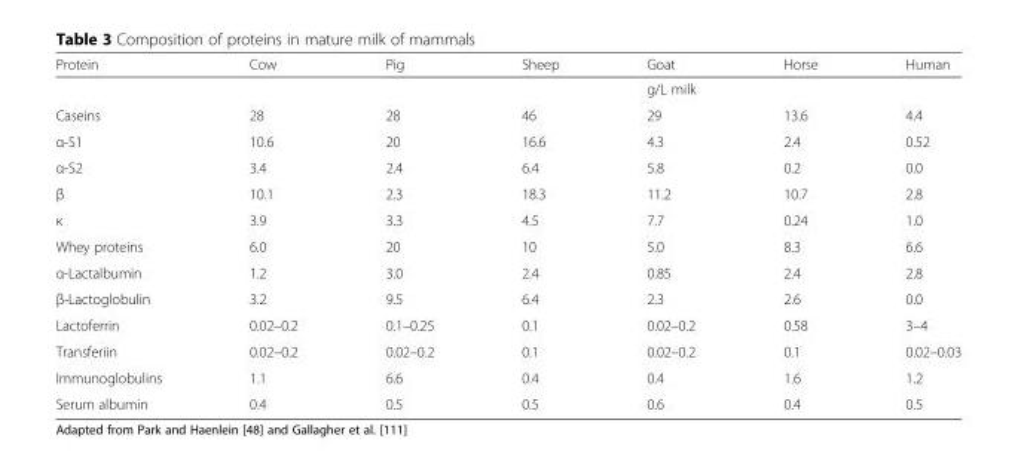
<table><thead><tr><td>Protein</td><td>Cow</td><td>Pig</td><td>Sheep</td><td>Goat</td><td>Horse</td><td>Human</td></tr></thead><tbody><tr><td></td><td></td><td></td><td></td><td>g/L milk</td><td></td><td></td></tr><tr><td>Caseins</td><td>28</td><td>28</td><td>46</td><td>29</td><td>13.6</td><td>4.4</td></tr><tr><td>α-S1</td><td>10.6</td><td>20</td><td>16.6</td><td>4.3</td><td>2.4</td><td>0.52</td></tr><tr><td>α-S2</td><td>3.4</td><td>2.4</td><td>6.4</td><td>5.8</td><td>0.2</td><td>0.0</td></tr><tr><td>β</td><td>10.1</td><td>2.3</td><td>18.3</td><td>11.2</td><td>10.7</td><td>2.8</td></tr><tr><td>κ</td><td>3.9</td><td>3.3</td><td>4.5</td><td>7.7</td><td>0.24</td><td>1.0</td></tr><tr><td>Whey proteins</td><td>6.0</td><td>20</td><td>10</td><td>5.0</td><td>8.3</td><td>6.6</td></tr><tr><td>α-Lactalbumin</td><td>1.2</td><td>3.0</td><td>2.4</td><td>0.85</td><td>2.4</td><td>2.8</td></tr><tr><td>β-Lactoglobulin</td><td>3.2</td><td>9.5</td><td>6.4</td><td>2.3</td><td>2.6</td><td>0.0</td></tr><tr><td>Lactoferrin</td><td>0.02–0.2</td><td>0.1–0.25</td><td>0.1</td><td>0.02–0.2</td><td>0.58</td><td>3–4</td></tr><tr><td>Transferiin</td><td>0.02–0.2</td><td>0.02–0.2</td><td>0.1</td><td>0.02–0.2</td><td>0.1</td><td>0.02–0.03</td></tr><tr><td>Immunoglobulins</td><td>1.1</td><td>6.6</td><td>0.4</td><td>0.4</td><td>1.6</td><td>1.2</td></tr><tr><td>Serum albumin</td><td>0.4</td><td>0.5</td><td>0.5</td><td>0.6</td><td>0.4</td><td>0.5</td></tr></tbody></table>